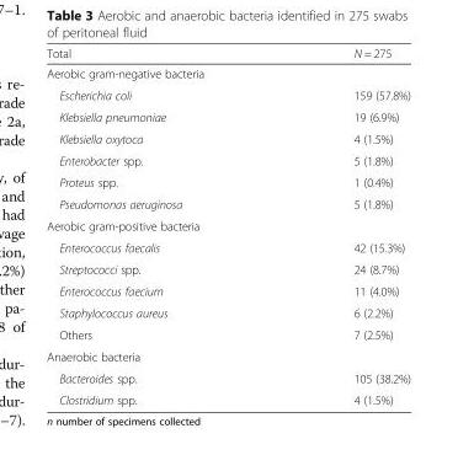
<table><thead><tr><td>Total</td><td>N = 275</td></tr></thead><tbody><tr><td colspan="2">Aerobic gram-negative bacteria</td></tr><tr><td>Escherichia coli</td><td>159 (57.8%)</td></tr><tr><td>Klebsiella pneumoniae</td><td>19 (6.9%)</td></tr><tr><td>Klebsiella oxytoca</td><td>4 (1.5%)</td></tr><tr><td>Enterobacter spp.</td><td>5 (1.8%)</td></tr><tr><td>Proteus spp.</td><td>1 (0.4%)</td></tr><tr><td>Pseudomonas aeruginosa</td><td>5 (1.8%)</td></tr><tr><td colspan="2">Aerobic gram-positive bacteria</td></tr><tr><td>Enterococcus faecalis</td><td>42 (15.3%)</td></tr><tr><td>Streptococci spp.</td><td>24 (8.7%)</td></tr><tr><td>Enterococcus faecium</td><td>11 (4.0%)</td></tr><tr><td>Staphylococcus aureus</td><td>6 (2.2%)</td></tr><tr><td>Others</td><td>7 (2.5%)</td></tr><tr><td colspan="2">Anaerobic bacteria</td></tr><tr><td>Bacteroides spp.</td><td>105 (38.2%)</td></tr><tr><td>Clostridium spp.</td><td>4 (1.5%)</td></tr></tbody></table>